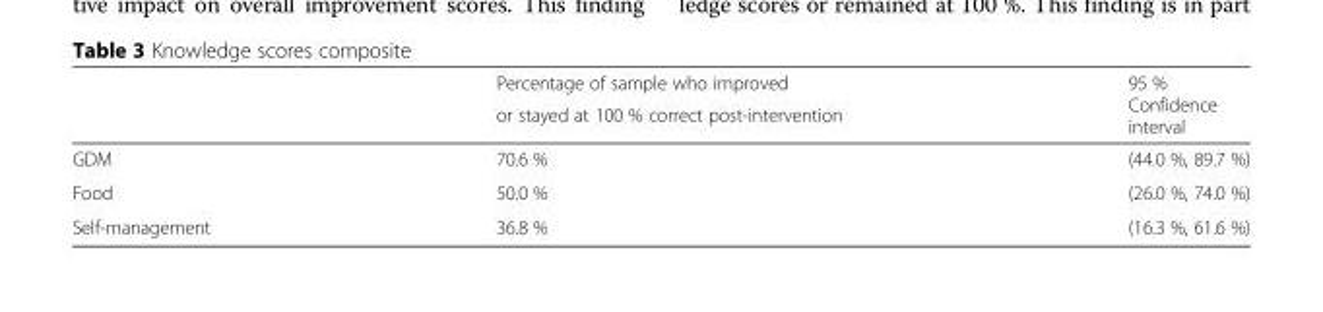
<table><thead><tr><td rowspan="2"></td><td rowspan="2">Percentage of sample who improved or stayed at 100 % correct post-intervention</td><td rowspan="2">95 % Confidence interval</td></tr><tr></tr></thead><tbody><tr><td>GDM</td><td>70.6 %</td><td>(44.0 %, 89.7 %)</td></tr><tr><td>Food</td><td>50.0 %</td><td>(26.0 %, 74.0 %)</td></tr><tr><td>Self-management</td><td>36.8 %</td><td>(16.3 %, 61.6 %)</td></tr></tbody></table>